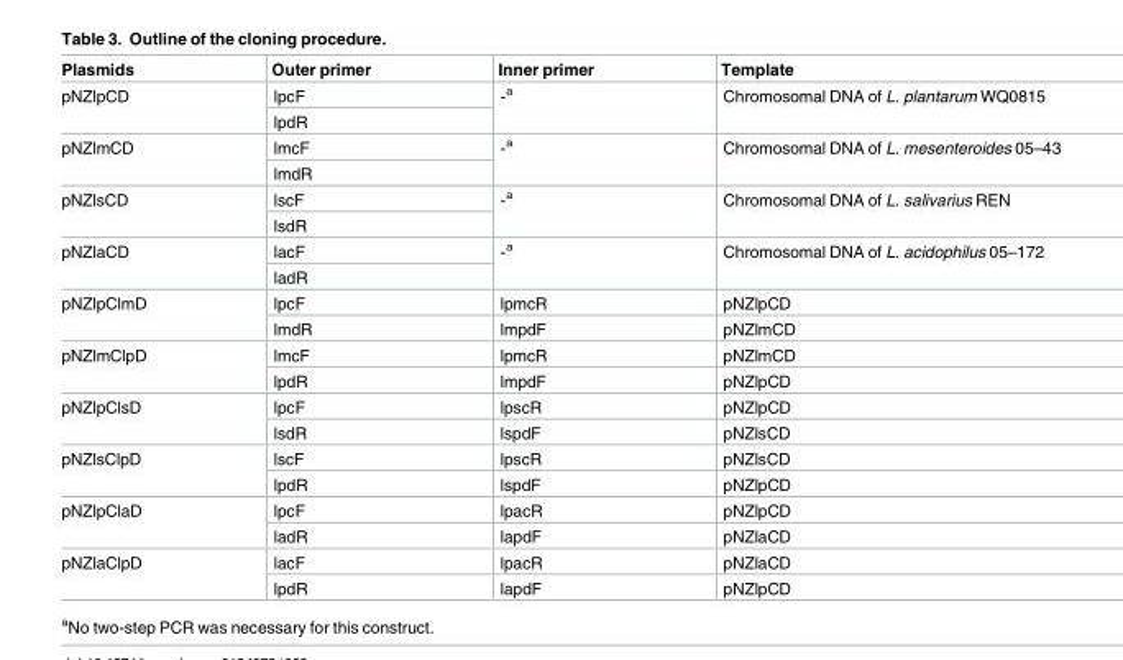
<table><thead><tr><td>Plasmids</td><td>Outer primer</td><td>Inner primer</td><td>Template</td></tr></thead><tbody><tr><td rowspan="2">pNZlpCD</td><td>lpcF</td><td rowspan="2">-<sup>a</sup></td><td rowspan="2">Chromosomal DNA of L. plantarum WQ0815</td></tr><tr><td>lpdR</td></tr><tr><td rowspan="2">pNZlmCD</td><td>lmcF</td><td rowspan="2">-<sup>a</sup></td><td rowspan="2">Chromosomal DNA of L. mesenteroides 05–43</td></tr><tr><td>lmdR</td></tr><tr><td rowspan="2">pNZlsCD</td><td>lscF</td><td rowspan="2">-<sup>a</sup></td><td rowspan="2">Chromosomal DNA of L. salivarius REN</td></tr><tr><td>lsdR</td></tr><tr><td rowspan="2">pNZlaCD</td><td>lacF</td><td rowspan="2">-<sup>a</sup></td><td rowspan="2">Chromosomal DNA of L. acidophilus 05–172</td></tr><tr><td>ladR</td></tr><tr><td rowspan="2">pNZlpClmD</td><td>lpcF</td><td>lpmcR</td><td>pNZlpCD</td></tr><tr><td>lmdR</td><td>lmpdF</td><td>pNZlmCD</td></tr><tr><td rowspan="2">pNZlmClpD</td><td>lmcF</td><td>lpmcR</td><td>pNZlmCD</td></tr><tr><td>lpdR</td><td>lmpdF</td><td>pNZlpCD</td></tr><tr><td rowspan="2">pNZlpClsD</td><td>lpcF</td><td>lpscR</td><td>pNZlpCD</td></tr><tr><td>lsdR</td><td>lspdF</td><td>pNZlsCD</td></tr><tr><td rowspan="2">pNZlsClpD</td><td>lscF</td><td>lpscR</td><td>pNZlsCD</td></tr><tr><td>lpdR</td><td>lspdF</td><td>pNZlpCD</td></tr><tr><td rowspan="2">pNZlpClaD</td><td>lpcF</td><td>lpacR</td><td>pNZlpCD</td></tr><tr><td>ladR</td><td>lapdF</td><td>pNZlaCD</td></tr><tr><td rowspan="2">pNZlaClpD</td><td>lacF</td><td>lpacR</td><td>pNZlaCD</td></tr><tr><td>lpdR</td><td>lapdF</td><td>pNZlpCD</td></tr></tbody></table>